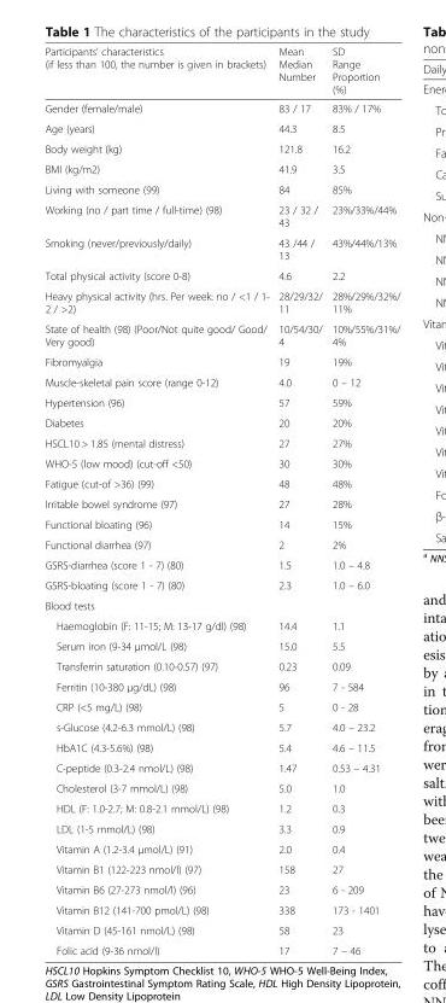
<table><thead><tr><td>Participants’ characteristics (if less than 100, the number is given in brackets)</td><td>Mean Median Number</td><td>SD Range Proportion (%)</td></tr></thead><tbody><tr><td>Gender (female/male)</td><td>83 / 17</td><td>83% / 17%</td></tr><tr><td>Age (years)</td><td>44.3</td><td>8.5</td></tr><tr><td>Body weight (kg)</td><td>121.8</td><td>16.2</td></tr><tr><td>BMI (kg/m2)</td><td>41.9</td><td>3.5</td></tr><tr><td>Living with someone (99)</td><td>84</td><td>85%</td></tr><tr><td>Working (no / part time / full-time) (98)</td><td>23 / 32 / 43</td><td>23%/33%/44%</td></tr><tr><td>Smoking (never/previously/daily)</td><td>43 /44 / 13</td><td>43%/44%/13%</td></tr><tr><td>Total physical activity (score 0-8)</td><td>4.6</td><td>2.2</td></tr><tr><td>Heavy physical activity (hrs. Per week: no / &lt;1 / 1- 2 / &gt;2)</td><td>28/29/32/ 11</td><td>28%/29%/32%/ 11%</td></tr><tr><td>State of health (98) (Poor/Not quite good/ Good/ Very good)</td><td>10/54/30/ 4</td><td>10%/55%/31%/ 4%</td></tr><tr><td>Fibromyalgia</td><td>19</td><td>19%</td></tr><tr><td>Muscle-skeletal pain score (range 0-12)</td><td>4.0</td><td>0 – 12</td></tr><tr><td>Hypertension (96)</td><td>57</td><td>59%</td></tr><tr><td>Diabetes</td><td>20</td><td>20%</td></tr><tr><td>HSCL10 &gt; 1.85 (mental distress)</td><td>27</td><td>27%</td></tr><tr><td>WHO-5 (low mood) (cut-off &lt;50)</td><td>30</td><td>30%</td></tr><tr><td>Fatigue (cut-of &gt;36) (99)</td><td>48</td><td>48%</td></tr><tr><td>Irritable bowel syndrome (97)</td><td>27</td><td>28%</td></tr><tr><td>Functional bloating (96)</td><td>14</td><td>15%</td></tr><tr><td>Functional diarrhea (97)</td><td>2</td><td>2%</td></tr><tr><td>GSRS-diarrhea (score 1 - 7) (80)</td><td>1.5</td><td>1.0 – 4.8</td></tr><tr><td>GSRS-bloating (score 1 - 7) (80)</td><td>2.3</td><td>1.0 – 6.0</td></tr><tr><td colspan="3">Blood tests</td></tr><tr><td>Haemoglobin (F: 11-15; M: 13-17 g/dl) (98)</td><td>14.4</td><td>1.1</td></tr><tr><td>Serum iron (9-34 μmol/L (98)</td><td>15.0</td><td>5.5</td></tr><tr><td>Transferrin saturation (0.10-0.57) (97)</td><td>0.23</td><td>0.09</td></tr><tr><td>Ferritin (10-380 μg/dL) (98)</td><td>96</td><td>7 - 584</td></tr><tr><td>CRP (&lt;5 mg/L) (98)</td><td>5</td><td>0 - 28</td></tr><tr><td>s-Glucose (4.2-6.3 mmol/L) (98)</td><td>5.7</td><td>4.0 – 23.2</td></tr><tr><td>HbA1C (4.3-5.6%) (98)</td><td>5.4</td><td>4.6 – 11.5</td></tr><tr><td>C-peptide (0.3-2.4 nmol/L) (98)</td><td>1.47</td><td>0.53 – 4.31</td></tr><tr><td>Cholesterol (3-7 mmol/L) (98)</td><td>5.0</td><td>1.0</td></tr><tr><td>HDL (F: 1.0-2.7; M: 0.8-2.1 mmol/L) (98)</td><td>1.2</td><td>0.3</td></tr><tr><td>LDL (1-5 mmol/L) (98)</td><td>3.3</td><td>0.9</td></tr><tr><td>Vitamin A (1.2-3.4 μmol/L) (91)</td><td>2.0</td><td>0.4</td></tr><tr><td>Vitamin B1 (122-223 nmol/l) (97)</td><td>158</td><td>27</td></tr><tr><td>Vitamin B6 (27-273 nmol/l) (96)</td><td>23</td><td>6 - 209</td></tr><tr><td>Vitamin B12 (141-700 pmol/L) (98)</td><td>338</td><td>173 - 1401</td></tr><tr><td>Vitamin D (45-161 nmol/L) (98)</td><td>58</td><td>23</td></tr><tr><td>Folic acid (9-36 nmol/l)</td><td>17</td><td>7 – 46</td></tr></tbody></table>